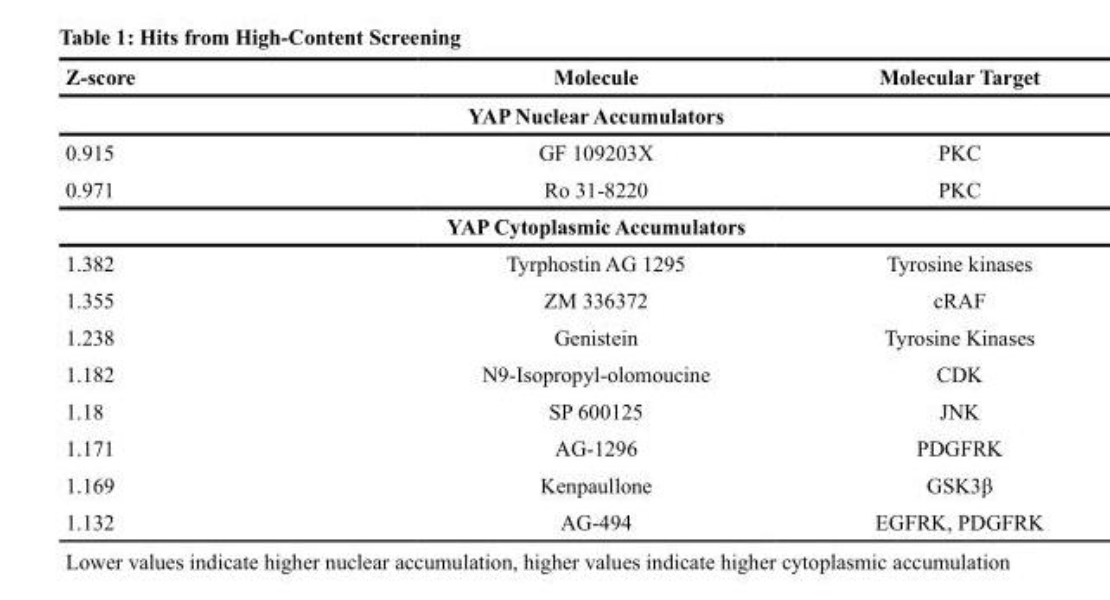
<table><thead><tr><td rowspan="2">Z-score</td><td rowspan="2">Molecule YAP Nuclear Accumulators</td><td rowspan="2">Molecular Target</td></tr><tr></tr></thead><tbody><tr><td>0.915</td><td>GF 109203X</td><td>PKC</td></tr><tr><td rowspan="2">0.971</td><td>Ro 31-8220</td><td>PKC</td></tr><tr><td>YAP Cytoplasmic Accumulators</td><td></td></tr><tr><td>1.382</td><td>Tyrphostin AG 1295</td><td>Tyrosine kinases</td></tr><tr><td>1.355</td><td>ZM 336372</td><td>cRAF</td></tr><tr><td>1.238</td><td>Genistein</td><td>Tyrosine Kinases</td></tr><tr><td>1.182</td><td>N9-Isopropyl-olomoucine</td><td>CDK</td></tr><tr><td>1.18</td><td>SP 600125</td><td>JNK</td></tr><tr><td>1.171</td><td>AG-1296</td><td>PDGFRK</td></tr><tr><td>1.169</td><td>Kenpaullone</td><td>GSK3β</td></tr><tr><td>1.132</td><td>AG-494</td><td>EGFRK, PDGFRK</td></tr></tbody></table>